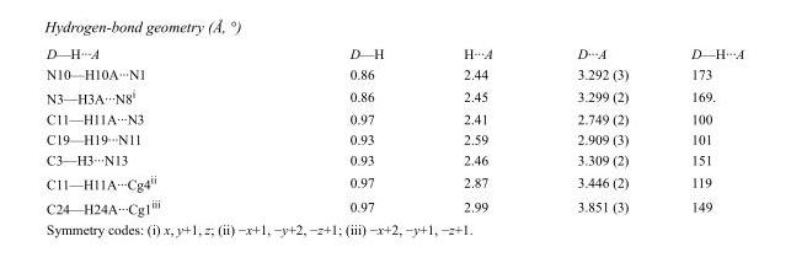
<table><tbody><tr><td>D—H···A</td><td>D—H</td><td>H···A</td><td>D···A</td><td>D—H···A</td></tr><tr><td>N10—H10A···N1</td><td>0.86</td><td>2.44</td><td>3.292 (3)</td><td>173</td></tr><tr><td>N3—H3A···N8<sup>i</sup></td><td>0.86</td><td>2.45</td><td>3.299 (2)</td><td>169.</td></tr><tr><td>C11—H11A···N3</td><td>0.97</td><td>2.41</td><td>2.749 (2)</td><td>100</td></tr><tr><td>C19—H19···N11</td><td>0.93</td><td>2.59</td><td>2.909 (3)</td><td>101</td></tr><tr><td>C3—H3···N13</td><td>0.93</td><td>2.46</td><td>3.309 (2)</td><td>151</td></tr><tr><td>C11—H11A···Cg4<sup>ii</sup></td><td>0.97</td><td>2.87</td><td>3.446 (2)</td><td>119</td></tr><tr><td>C24—H24A···Cg1<sup>iii</sup></td><td>0.97</td><td>2.99</td><td>3.851 (3)</td><td>149</td></tr></tbody></table>